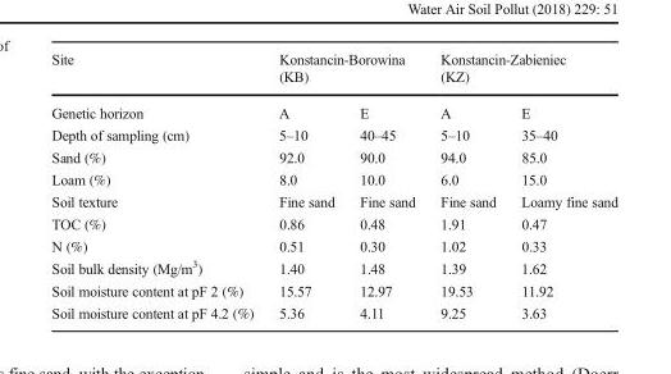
<table><thead><tr><td rowspan="2">Site Genetic horizon</td><td colspan="2">Konstancin-Borowina (KB)</td><td colspan="2">Konstancin-Zabieniec (KZ)</td></tr><tr><td>A</td><td>E</td><td>A</td><td>E</td></tr></thead><tbody><tr><td>Depth of sampling (cm)</td><td>5–10</td><td>40–45</td><td>5–10</td><td>35–40</td></tr><tr><td>Sand (%)</td><td>92.0</td><td>90.0</td><td>94.0</td><td>85.0</td></tr><tr><td>Loam (%)</td><td>8.0</td><td>10.0</td><td>6.0</td><td>15.0</td></tr><tr><td>Soil texture</td><td>Fine sand</td><td>Fine sand</td><td>Fine sand</td><td>Loamy fine sand</td></tr><tr><td>TOC (%)</td><td>0.86</td><td>0.48</td><td>1.91</td><td>0.47</td></tr><tr><td>N (%)</td><td>0.51</td><td>0.30</td><td>1.02</td><td>0.33</td></tr><tr><td>Soil bulk density (Mg/m<sup>3</sup>)</td><td>1.40</td><td>1.48</td><td>1.39</td><td>1.62</td></tr><tr><td>Soil moisture content at pF 2 (%)</td><td>15.57</td><td>12.97</td><td>19.53</td><td>11.92</td></tr><tr><td>Soil moisture content at pF 4.2 (%)</td><td>5.36</td><td>4.11</td><td>9.25</td><td>3.63</td></tr></tbody></table>